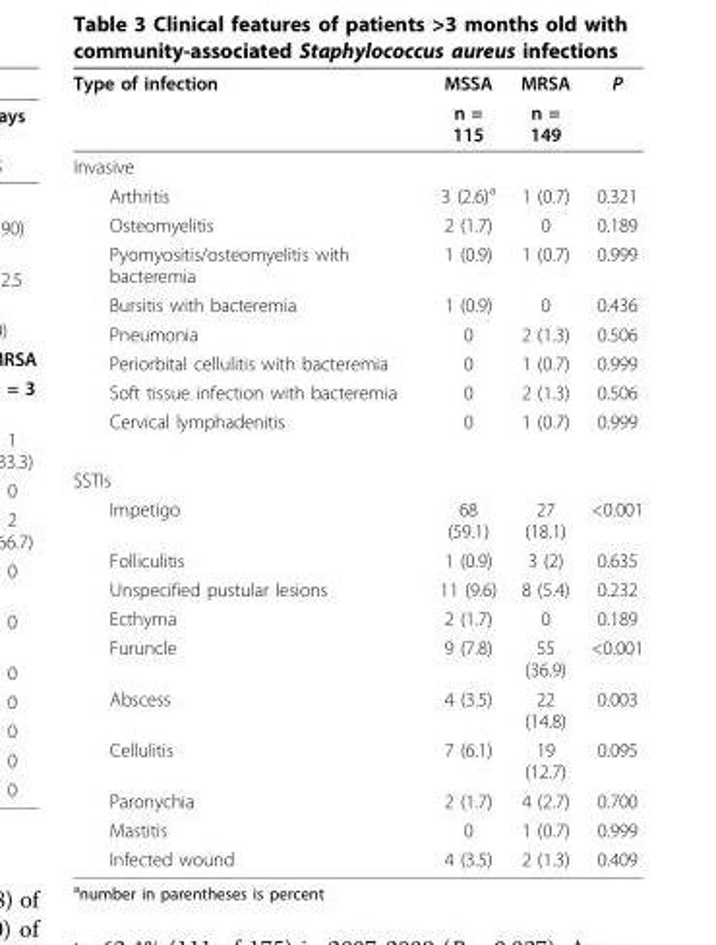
<table><thead><tr><td rowspan="2">Type of infection</td><td rowspan="2">MSSA n = 115</td><td rowspan="2">MRSA n = 149</td><td rowspan="2">P</td></tr><tr></tr></thead><tbody><tr><td colspan="4">Invasive</td></tr><tr><td>Arthritis</td><td>3 (2.6)<sup>a</sup></td><td>1 (0.7)</td><td>0.321</td></tr><tr><td>Osteomyelitis</td><td>2 (1.7)</td><td>0</td><td>0.189</td></tr><tr><td>Pyomyositis/osteomyelitis with bacteremia</td><td>1 (0.9)</td><td>1 (0.7)</td><td>0.999</td></tr><tr><td>Bursitis with bacteremia</td><td>1 (0.9)</td><td>0</td><td>0.436</td></tr><tr><td>Pneumonia</td><td>0</td><td>2 (1.3)</td><td>0.506</td></tr><tr><td>Periorbital cellulitis with bacteremia</td><td>0</td><td>1 (0.7)</td><td>0.999</td></tr><tr><td>Soft tissue infection with bacteremia</td><td>0</td><td>2 (1.3)</td><td>0.506</td></tr><tr><td>Cervical lymphadenitis</td><td>0</td><td>1 (0.7)</td><td>0.999</td></tr><tr><td colspan="4">SSTIs</td></tr><tr><td>Impetigo</td><td>68 (59.1)</td><td>27 (18.1)</td><td>&lt;0.001</td></tr><tr><td>Folliculitis</td><td>1 (0.9)</td><td>3 (2)</td><td>0.635</td></tr><tr><td>Unspecified pustular lesions</td><td>11 (9.6)</td><td>8 (5.4)</td><td>0.232</td></tr><tr><td>Ecthyma</td><td>2 (1.7)</td><td>0</td><td>0.189</td></tr><tr><td>Furuncle</td><td>9 (7.8)</td><td>55 (36.9)</td><td>&lt;0.001</td></tr><tr><td>Abscess</td><td>4 (3.5)</td><td>22 (14.8)</td><td>0.003</td></tr><tr><td>Cellulitis</td><td>7 (6.1)</td><td>19 (12.7)</td><td>0.095</td></tr><tr><td>Paronychia</td><td>2 (1.7)</td><td>4 (2.7)</td><td>0.700</td></tr><tr><td>Mastitis</td><td>0</td><td>1 (0.7)</td><td>0.999</td></tr><tr><td>Infected wound</td><td>4 (3.5)</td><td>2 (1.3)</td><td>0.409</td></tr></tbody></table>